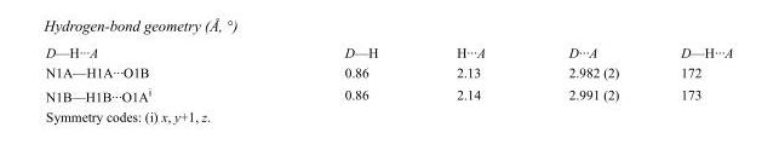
<table><tbody><tr><td>D—H···A</td><td>D—H</td><td>H···A</td><td>D···A</td><td>D—H···A</td></tr><tr><td>N1A—H1A···O1B</td><td>0.86</td><td>2.13</td><td>2.982 (2)</td><td>172</td></tr><tr><td>N1B—H1B···O1A<sup>i</sup></td><td>0.86</td><td>2.14</td><td>2.991 (2)</td><td>173</td></tr></tbody></table>